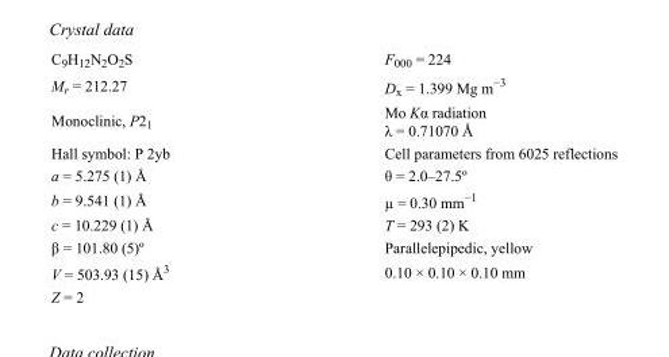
<table><tbody><tr><td>C<sub>9</sub>H<sub>12</sub>N<sub>2</sub>O<sub>2</sub>S</td><td>F<sub>000</sub> = 224</td></tr><tr><td>M<sub>r</sub> = 212.27</td><td>D<sub>x</sub> = 1.399 Mg m<sup>−3</sup></td></tr><tr><td>Monoclinic, P2<sub>1</sub></td><td>Mo Kα radiation λ = 0.71070 Å</td></tr><tr><td>Hall symbol: P 2yb</td><td>Cell parameters from 6025 reflections</td></tr><tr><td>a = 5.275 (1) Å</td><td>θ = 2.0–27.5º</td></tr><tr><td>b = 9.541 (1) Å</td><td>µ = 0.30 mm<sup>−1</sup></td></tr><tr><td>c = 10.229 (1) Å</td><td>T = 293 (2) K</td></tr><tr><td>β = 101.80 (5)º</td><td>Parallelepipedic, yellow</td></tr><tr><td>V = 503.93 (15) Å<sup>3</sup></td><td>0.10 × 0.10 × 0.10 mm</td></tr><tr><td>Z = 2</td><td></td></tr></tbody></table>